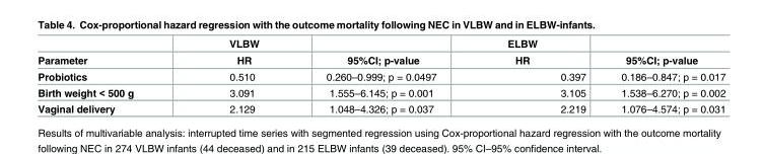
<table><thead><tr><td rowspan="2">Parameter</td><td rowspan="2">VLBW HR</td><td rowspan="2">95%CI; p-value</td><td rowspan="2">ELBW HR</td><td rowspan="2">95%CI; p-value</td></tr><tr></tr></thead><tbody><tr><td>Probiotics</td><td>0.510</td><td>0.260–0.999; p = 0.0497</td><td>0.397</td><td>0.186–0.847; p = 0.017</td></tr><tr><td>Birth weight &lt; 500 g</td><td>3.091</td><td>1.555–6.145; p = 0.001</td><td>3.105</td><td>1.538–6.270; p = 0.002</td></tr><tr><td>Vaginal delivery</td><td>2.129</td><td>1.048–4.326; p = 0.037</td><td>2.219</td><td>1.076–4.574; p = 0.031</td></tr></tbody></table>